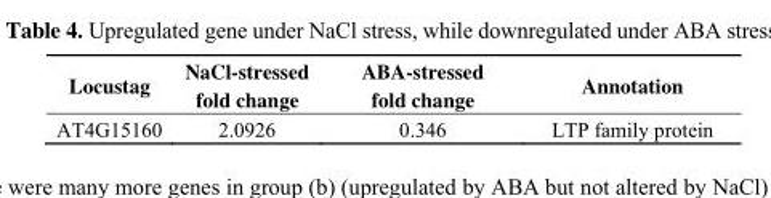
<table><thead><tr><td>Locustag</td><td>NaCl-stressed fold change</td><td>ABA-stressed fold change</td><td>Annotation</td></tr></thead><tbody><tr><td>AT4G15160</td><td>2.0926</td><td>0.346</td><td>LTP family protein</td></tr></tbody></table>